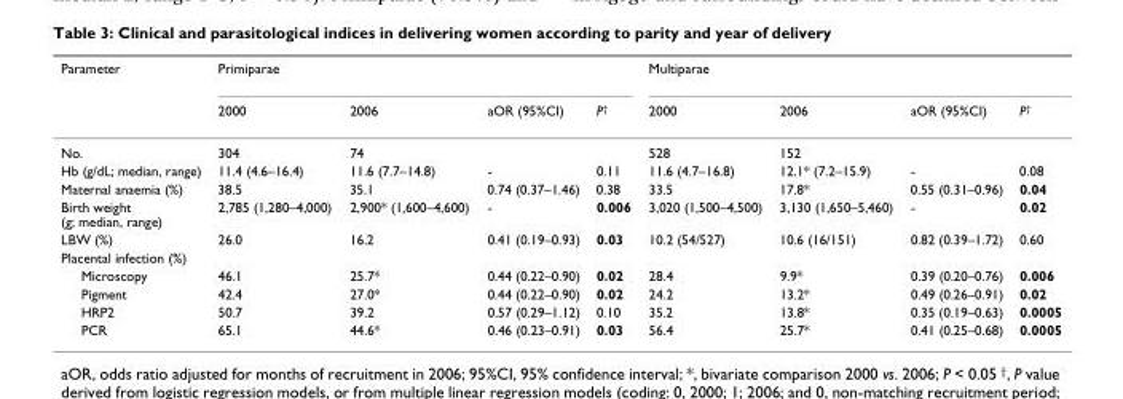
<table><thead><tr><td rowspan="2">Parameter</td><td colspan="4">Primiparae</td><td colspan="4">Multiparae</td></tr><tr><td>2000</td><td>2006</td><td>aOR (95%CI)</td><td>P<sup>†</sup></td><td>2000</td><td>2006</td><td>aOR (95%CI)</td><td>P<sup>†</sup></td></tr></thead><tbody><tr><td>No.</td><td>304</td><td>74</td><td></td><td></td><td>528</td><td>152</td><td></td><td></td></tr><tr><td>Hb (g/dL; median, range)</td><td>11.4 (4.6–16.4)</td><td>11.6 (7.7–14.8)</td><td>-</td><td>0.11</td><td>11.6 (4.7–16.8)</td><td>12.1* (7.2–15.9)</td><td>-</td><td>0.08</td></tr><tr><td>Maternal anaemia (%)</td><td>38.5</td><td>35.1</td><td>0.74 (0.37–1.46)</td><td>0.38</td><td>33.5</td><td>17.8*</td><td>0.55 (0.31–0.96)</td><td>0.04</td></tr><tr><td>Birth weight (g; median, range)</td><td>2,785 (1,280–4,000)</td><td>2,900* (1,600–4,600)</td><td>-</td><td>0.006</td><td>3,020 (1,500–4,500)</td><td>3,130 (1,650–5,460)</td><td>-</td><td>0.02</td></tr><tr><td>LBW (%)</td><td>26.0</td><td>16.2</td><td>0.41 (0.19–0.93)</td><td>0.03</td><td>10.2 (54/527)</td><td>10.6 (16/151)</td><td>0.82 (0.39–1.72)</td><td>0.60</td></tr><tr><td colspan="9">Placental infection (%)</td></tr><tr><td>Microscopy</td><td>46.1</td><td>25.7*</td><td>0.44 (0.22–0.90)</td><td>0.02</td><td>28.4</td><td>9.9*</td><td>0.39 (0.20–0.76)</td><td>0.006</td></tr><tr><td>Pigment</td><td>42.4</td><td>27.0*</td><td>0.44 (0.22–0.90)</td><td>0.02</td><td>24.2</td><td>13.2*</td><td>0.49 (0.26–0.91)</td><td>0.02</td></tr><tr><td>HRP2</td><td>50.7</td><td>39.2</td><td>0.57 (0.29–1.12)</td><td>0.10</td><td>35.2</td><td>13.8*</td><td>0.35 (0.19–0.63)</td><td>0.0005</td></tr><tr><td>PCR</td><td>65.1</td><td>44.6*</td><td>0.46 (0.23–0.91)</td><td>0.03</td><td>56.4</td><td>25.7*</td><td>0.41 (0.25–0.68)</td><td>0.0005</td></tr></tbody></table>